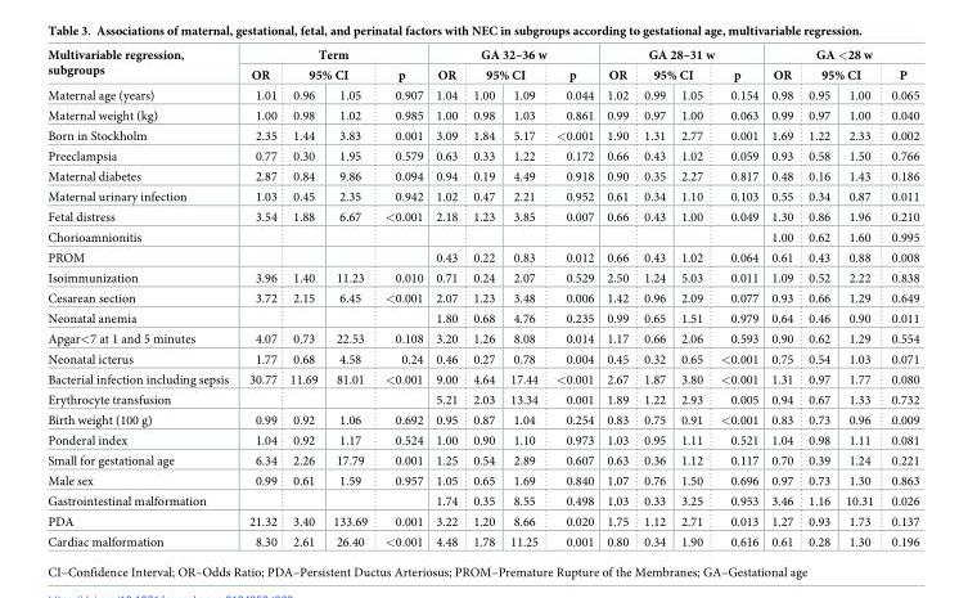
<table><thead><tr><td rowspan="3">Multivariable regression, subgroups Maternal age (years)</td><td colspan="4">Term</td><td colspan="4">GA 32–36 w</td><td colspan="4">GA 28–31 w</td><td colspan="4">GA &lt;28 w</td></tr><tr><td rowspan="2">OR 1.01</td><td colspan="2">95% CI</td><td rowspan="2">p 0.907</td><td rowspan="2">OR 1.04</td><td colspan="2">95% CI</td><td rowspan="2">p 0.044</td><td rowspan="2">OR 1.02</td><td colspan="2">95% CI</td><td rowspan="2">p 0.154</td><td rowspan="2">OR 0.98</td><td colspan="2">95% CI</td><td rowspan="2">P 0.065</td></tr><tr><td>0.96</td><td>1.05</td><td>1.00</td><td>1.09</td><td>0.99</td><td>1.05</td><td>0.95</td><td>1.00</td></tr></thead><tbody><tr><td>Maternal weight (kg)</td><td>1.00</td><td>0.98</td><td>1.02</td><td>0.985</td><td>1.00</td><td>0.98</td><td>1.03</td><td>0.861</td><td>0.99</td><td>0.97</td><td>1.00</td><td>0.063</td><td>0.99</td><td>0.97</td><td>1.00</td><td>0.040</td></tr><tr><td>Born in Stockholm</td><td>2.35</td><td>1.44</td><td>3.83</td><td>0.001</td><td>3.09</td><td>1.84</td><td>5.17</td><td>&lt;0.001</td><td>1.90</td><td>1.31</td><td>2.77</td><td>0.001</td><td>1.69</td><td>1.22</td><td>2.33</td><td>0.002</td></tr><tr><td>Preeclampsia</td><td>0.77</td><td>0.30</td><td>1.95</td><td>0.579</td><td>0.63</td><td>0.33</td><td>1.22</td><td>0.172</td><td>0.66</td><td>0.43</td><td>1.02</td><td>0.059</td><td>0.93</td><td>0.58</td><td>1.50</td><td>0.766</td></tr><tr><td>Maternal diabetes</td><td>2.87</td><td>0.84</td><td>9.86</td><td>0.094</td><td>0.94</td><td>0.19</td><td>4.49</td><td>0.918</td><td>0.90</td><td>0.35</td><td>2.27</td><td>0.817</td><td>0.48</td><td>0.16</td><td>1.43</td><td>0.186</td></tr><tr><td>Maternal urinary infection</td><td>1.03</td><td>0.45</td><td>2.35</td><td>0.942</td><td>1.02</td><td>0.47</td><td>2.21</td><td>0.952</td><td>0.61</td><td>0.34</td><td>1.10</td><td>0.103</td><td>0.55</td><td>0.34</td><td>0.87</td><td>0.011</td></tr><tr><td>Fetal distress</td><td>3.54</td><td>1.88</td><td>6.67</td><td>&lt;0.001</td><td>2.18</td><td>1.23</td><td>3.85</td><td>0.007</td><td>0.66</td><td>0.43</td><td>1.00</td><td>0.049</td><td>1.30</td><td>0.86</td><td>1.96</td><td>0.210</td></tr><tr><td>Chorioamnionitis</td><td></td><td></td><td></td><td></td><td></td><td></td><td></td><td></td><td></td><td></td><td></td><td></td><td>1.00</td><td>0.62</td><td>1.60</td><td>0.995</td></tr><tr><td>PROM</td><td></td><td></td><td></td><td></td><td>0.43</td><td>0.22</td><td>0.83</td><td>0.012</td><td>0.66</td><td>0.43</td><td>1.02</td><td>0.064</td><td>0.61</td><td>0.43</td><td>0.88</td><td>0.008</td></tr><tr><td>Isoimmunization</td><td>3.96</td><td>1.40</td><td>11.23</td><td>0.010</td><td>0.71</td><td>0.24</td><td>2.07</td><td>0.529</td><td>2.50</td><td>1.24</td><td>5.03</td><td>0.011</td><td>1.09</td><td>0.52</td><td>2.22</td><td>0.838</td></tr><tr><td>Cesarean section</td><td>3.72</td><td>2.15</td><td>6.45</td><td>&lt;0.001</td><td>2.07</td><td>1.23</td><td>3.48</td><td>0.006</td><td>1.42</td><td>0.96</td><td>2.09</td><td>0.077</td><td>0.93</td><td>0.66</td><td>1.29</td><td>0.649</td></tr><tr><td>Neonatal anemia</td><td></td><td></td><td></td><td></td><td>1.80</td><td>0.68</td><td>4.76</td><td>0.235</td><td>0.99</td><td>0.65</td><td>1.51</td><td>0.979</td><td>0.64</td><td>0.46</td><td>0.90</td><td>0.011</td></tr><tr><td>Apgar&lt;7 at 1 and 5 minutes</td><td>4.07</td><td>0.73</td><td>22.53</td><td>0.108</td><td>3.20</td><td>1.26</td><td>8.08</td><td>0.014</td><td>1.17</td><td>0.66</td><td>2.06</td><td>0.593</td><td>0.90</td><td>0.62</td><td>1.29</td><td>0.554</td></tr><tr><td>Neonatal icterus</td><td>1.77</td><td>0.68</td><td>4.58</td><td>0.24</td><td>0.46</td><td>0.27</td><td>0.78</td><td>0.004</td><td>0.45</td><td>0.32</td><td>0.65</td><td>&lt;0.001</td><td>0.75</td><td>0.54</td><td>1.03</td><td>0.071</td></tr><tr><td>Bacterial infection including sepsis</td><td>30.77</td><td>11.69</td><td>81.01</td><td>&lt;0.001</td><td>9.00</td><td>4.64</td><td>17.44</td><td>&lt;0.001</td><td>2.67</td><td>1.87</td><td>3.80</td><td>&lt;0.001</td><td>1.31</td><td>0.97</td><td>1.77</td><td>0.080</td></tr><tr><td>Erythrocyte transfusion</td><td></td><td></td><td></td><td></td><td>5.21</td><td>2.03</td><td>13.34</td><td>0.001</td><td>1.89</td><td>1.22</td><td>2.93</td><td>0.005</td><td>0.94</td><td>0.67</td><td>1.33</td><td>0.732</td></tr><tr><td>Birth weight (100 g)</td><td>0.99</td><td>0.92</td><td>1.06</td><td>0.692</td><td>0.95</td><td>0.87</td><td>1.04</td><td>0.254</td><td>0.83</td><td>0.75</td><td>0.91</td><td>&lt;0.001</td><td>0.83</td><td>0.73</td><td>0.96</td><td>0.009</td></tr><tr><td>Ponderal index</td><td>1.04</td><td>0.92</td><td>1.17</td><td>0.524</td><td>1.00</td><td>0.90</td><td>1.10</td><td>0.973</td><td>1.03</td><td>0.95</td><td>1.11</td><td>0.521</td><td>1.04</td><td>0.98</td><td>1.11</td><td>0.081</td></tr><tr><td>Small for gestational age</td><td>6.34</td><td>2.26</td><td>17.79</td><td>0.001</td><td>1.25</td><td>0.54</td><td>2.89</td><td>0.607</td><td>0.63</td><td>0.36</td><td>1.12</td><td>0.117</td><td>0.70</td><td>0.39</td><td>1.24</td><td>0.221</td></tr><tr><td>Male sex</td><td>0.99</td><td>0.61</td><td>1.59</td><td>0.957</td><td>1.05</td><td>0.65</td><td>1.69</td><td>0.840</td><td>1.07</td><td>0.76</td><td>1.50</td><td>0.696</td><td>0.97</td><td>0.73</td><td>1.30</td><td>0.863</td></tr><tr><td>Gastrointestinal malformation</td><td></td><td></td><td></td><td></td><td>1.74</td><td>0.35</td><td>8.55</td><td>0.498</td><td>1.03</td><td>0.33</td><td>3.25</td><td>0.953</td><td>3.46</td><td>1.16</td><td>10.31</td><td>0.026</td></tr><tr><td>PDA</td><td>21.32</td><td>3.40</td><td>133.69</td><td>0.001</td><td>3.22</td><td>1.20</td><td>8.66</td><td>0.020</td><td>1.75</td><td>1.12</td><td>2.71</td><td>0.013</td><td>1.27</td><td>0.93</td><td>1.73</td><td>0.137</td></tr><tr><td>Cardiac malformation</td><td>8.30</td><td>2.61</td><td>26.40</td><td>&lt;0.001</td><td>4.48</td><td>1.78</td><td>11.25</td><td>0.001</td><td>0.80</td><td>0.34</td><td>1.90</td><td>0.616</td><td>0.61</td><td>0.28</td><td>1.30</td><td>0.196</td></tr></tbody></table>